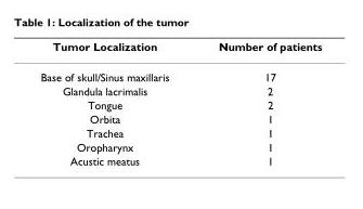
<table><thead><tr><td>Tumor Localization</td><td>Number of patients</td></tr></thead><tbody><tr><td>Base of skull/Sinus maxillaris</td><td>17</td></tr><tr><td>Glandula lacrimalis</td><td>2</td></tr><tr><td>Tongue</td><td>2</td></tr><tr><td>Orbita</td><td>1</td></tr><tr><td>Trachea</td><td>1</td></tr><tr><td>Oropharynx</td><td>1</td></tr><tr><td>Acustic meatus</td><td>1</td></tr></tbody></table>